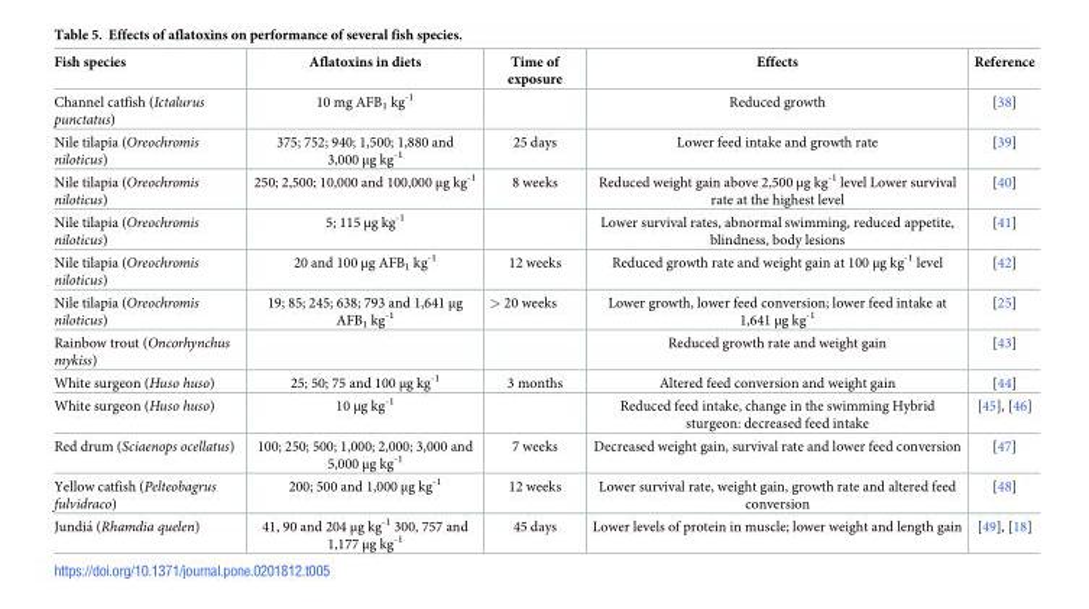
<table><thead><tr><td>Fish species</td><td>Aflatoxins in diets</td><td>Time of exposure</td><td>Effects</td><td>Reference</td></tr></thead><tbody><tr><td>Channel catfish (Ictalurus punctatus)</td><td>10 mg AFB<sub>1</sub> kg<sup>-1</sup></td><td></td><td>Reduced growth</td><td>[38]</td></tr><tr><td>Nile tilapia (Oreochromis niloticus)</td><td>375; 752; 940; 1,500; 1,880 and 3,000 μg kg<sup>-1</sup></td><td>25 days</td><td>Lower feed intake and growth rate</td><td>[39]</td></tr><tr><td>Nile tilapia (Oreochromis niloticus)</td><td>250; 2,500; 10,000 and 100,000 μg kg<sup>-1</sup></td><td>8 weeks</td><td>Reduced weight gain above 2,500 μg kg<sup>-1</sup> level Lower survival rate at the highest level</td><td>[40]</td></tr><tr><td>Nile tilapia (Oreochromis niloticus)</td><td>5; 115 μg kg<sup>-1</sup></td><td></td><td>Lower survival rates, abnormal swimming, reduced appetite, blindness, body lesions</td><td>[41]</td></tr><tr><td>Nile tilapia (Oreochromis niloticus)</td><td>20 and 100 μg AFB<sub>1</sub> kg<sup>-1</sup></td><td>12 weeks</td><td>Reduced growth rate and weight gain at 100 μg kg<sup>-1</sup> level</td><td>[42]</td></tr><tr><td>Nile tilapia (Oreochromis niloticus)</td><td>19; 85; 245; 638; 793 and 1,641 μg AFB<sub>1</sub> kg<sup>-1</sup></td><td>&gt; 20 weeks</td><td>Lower growth, lower feed conversion; lower feed intake at 1,641 μg kg<sup>-1</sup></td><td>[25]</td></tr><tr><td>Rainbow trout (Oncorhynchus mykiss)</td><td></td><td></td><td>Reduced growth rate and weight gain</td><td>[43]</td></tr><tr><td>White surgeon (Huso huso)</td><td>25; 50; 75 and 100 μg kg<sup>-1</sup></td><td>3 months</td><td>Altered feed conversion and weight gain</td><td>[44]</td></tr><tr><td>White surgeon (Huso huso)</td><td>10 μg kg<sup>-1</sup></td><td></td><td>Reduced feed intake, change in the swimming Hybrid sturgeon: decreased feed intake</td><td>[45], [46]</td></tr><tr><td>Red drum (Sciaenops ocellatus)</td><td>100; 250; 500; 1,000; 2,000; 3,000 and 5,000 μg kg<sup>-1</sup></td><td>7 weeks</td><td>Decreased weight gain, survival rate and lower feed conversion</td><td>[47]</td></tr><tr><td>Yellow catfish (Pelteobagrus fulvidraco)</td><td>200; 500 and 1,000 μg kg<sup>-1</sup></td><td>12 weeks</td><td>Lower survival rate, weight gain, growth rate and altered feed conversion</td><td>[48]</td></tr><tr><td>Jundia´ (Rhamdia quelen)</td><td>41, 90 and 204 μg kg<sup>-1</sup> 300, 757 and 1,177 μg kg<sup>-1</sup></td><td>45 days</td><td>Lower levels of protein in muscle; lower weight and length gain</td><td>[49], [18]</td></tr></tbody></table>